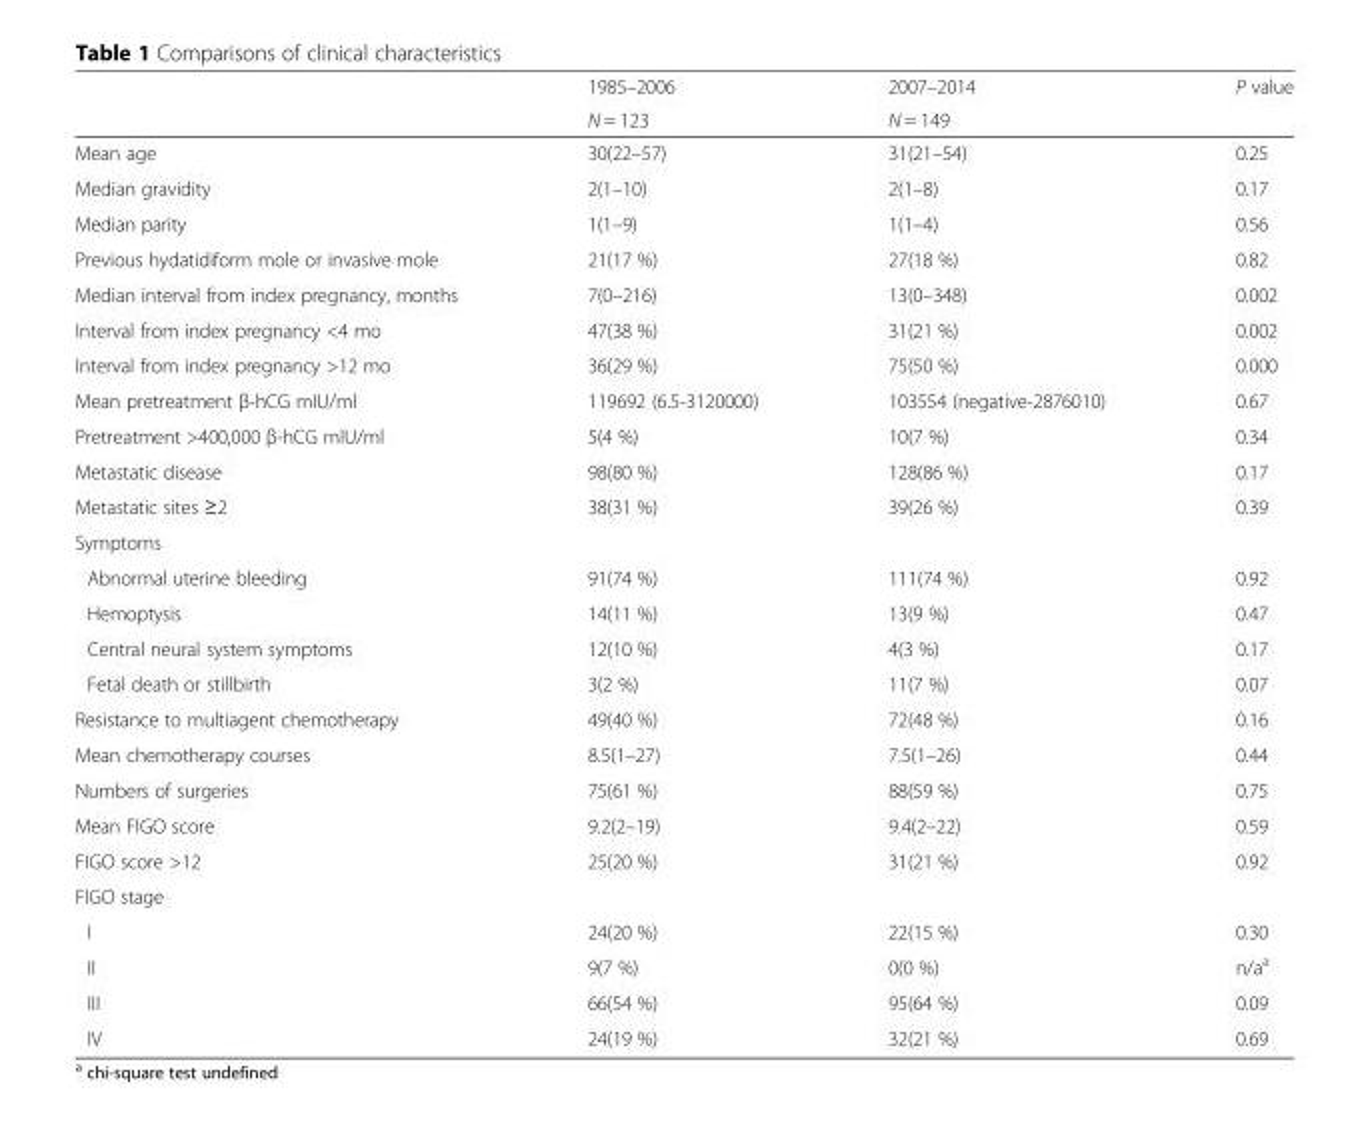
<table><thead><tr><td rowspan="2"></td><td rowspan="2">1985–2006 N = 123</td><td rowspan="2">2007–2014 N = 149</td><td rowspan="2">P value</td></tr><tr></tr></thead><tbody><tr><td>Mean age</td><td>30(22–57)</td><td>31(21–54)</td><td>0.25</td></tr><tr><td>Median gravidity</td><td>2(1–10)</td><td>2(1–8)</td><td>0.17</td></tr><tr><td>Median parity</td><td>1(1–9)</td><td>1(1–4)</td><td>0.56</td></tr><tr><td>Previous hydatidiform mole or invasive mole</td><td>21(17 %)</td><td>27(18 %)</td><td>0.82</td></tr><tr><td>Median interval from index pregnancy, months</td><td>7(0–216)</td><td>13(0–348)</td><td>0.002</td></tr><tr><td>Interval from index pregnancy &lt;4 mo</td><td>47(38 %)</td><td>31(21 %)</td><td>0.002</td></tr><tr><td>Interval from index pregnancy &gt;12 mo</td><td>36(29 %)</td><td>75(50 %)</td><td>0.000</td></tr><tr><td>Mean pretreatment β-hCG mIU/ml</td><td>119692 (6.5-3120000)</td><td>103554 (negative-2876010)</td><td>0.67</td></tr><tr><td>Pretreatment &gt;400,000 β-hCG mIU/ml</td><td>5(4 %)</td><td>10(7 %)</td><td>0.34</td></tr><tr><td>Metastatic disease</td><td>98(80 %)</td><td>128(86 %)</td><td>0.17</td></tr><tr><td>Metastatic sites ≥2</td><td>38(31 %)</td><td>39(26 %)</td><td>0.39</td></tr><tr><td colspan="4">Symptoms</td></tr><tr><td>Abnormal uterine bleeding</td><td>91(74 %)</td><td>111(74 %)</td><td>0.92</td></tr><tr><td>Hemoptysis</td><td>14(11 %)</td><td>13(9 %)</td><td>0.47</td></tr><tr><td>Central neural system symptoms</td><td>12(10 %)</td><td>4(3 %)</td><td>0.17</td></tr><tr><td>Fetal death or stillbirth</td><td>3(2 %)</td><td>11(7 %)</td><td>0.07</td></tr><tr><td>Resistance to multiagent chemotherapy</td><td>49(40 %)</td><td>72(48 %)</td><td>0.16</td></tr><tr><td>Mean chemotherapy courses</td><td>8.5(1–27)</td><td>7.5(1–26)</td><td>0.44</td></tr><tr><td>Numbers of surgeries</td><td>75(61 %)</td><td>88(59 %)</td><td>0.75</td></tr><tr><td>Mean FIGO score</td><td>9.2(2–19)</td><td>9.4(2–22)</td><td>0.59</td></tr><tr><td>FIGO score &gt;12</td><td>25(20 %)</td><td>31(21 %)</td><td>0.92</td></tr><tr><td colspan="4">FIGO stage</td></tr><tr><td>I</td><td>24(20 %)</td><td>22(15 %)</td><td>0.30</td></tr><tr><td>II</td><td>9(7 %)</td><td>0(0 %)</td><td>n/a<sup>a</sup></td></tr><tr><td>III</td><td>66(54 %)</td><td>95(64 %)</td><td>0.09</td></tr><tr><td>IV</td><td>24(19 %)</td><td>32(21 %)</td><td>0.69</td></tr></tbody></table>